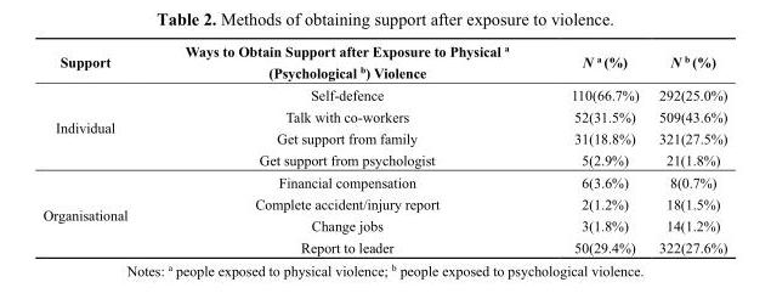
<table><thead><tr><td>Support</td><td>Ways to Obtain Support after Exposure to Physical <sup>a</sup> (Psychological <sup>b</sup>) Violence</td><td>N <sup>a</sup> (%)</td><td>N <sup>b</sup> (%)</td></tr></thead><tbody><tr><td rowspan="4">Individual</td><td>Self-defence</td><td>110(66.7%)</td><td>292(25.0%)</td></tr><tr><td>Talk with co-workers</td><td>52(31.5%)</td><td>509(43.6%)</td></tr><tr><td>Get support from family</td><td>31(18.8%)</td><td>321(27.5%)</td></tr><tr><td>Get support from psychologist</td><td>5(2.9%)</td><td>21(1.8%)</td></tr><tr><td rowspan="4">Organisational</td><td>Financial compensation</td><td>6(3.6%)</td><td>8(0.7%)</td></tr><tr><td>Complete accident/injury report</td><td>2(1.2%)</td><td>18(1.5%)</td></tr><tr><td>Change jobs</td><td>3(1.8%)</td><td>14(1.2%)</td></tr><tr><td>Report to leader</td><td>50(29.4%)</td><td>322(27.6%)</td></tr></tbody></table>